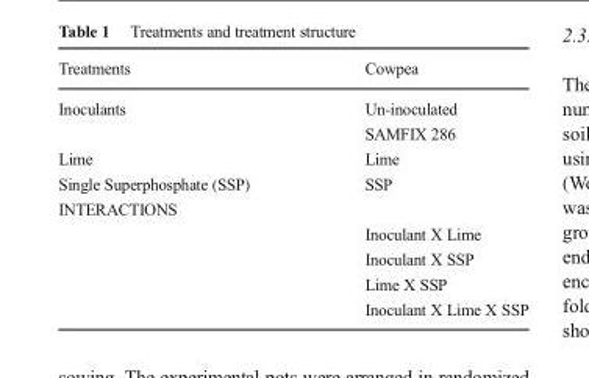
<table><thead><tr><td>Treatments</td><td>Cowpea</td></tr></thead><tbody><tr><td rowspan="2">Inoculants</td><td>Un-inoculated</td></tr><tr><td>SAMFIX 286</td></tr><tr><td>Lime</td><td>Lime</td></tr><tr><td>Single Superphosphate (SSP)</td><td>SSP</td></tr><tr><td colspan="2">INTERACTIONS</td></tr><tr><td></td><td>Inoculant X Lime</td></tr><tr><td></td><td>Inoculant X SSP</td></tr><tr><td></td><td>Lime X SSP</td></tr><tr><td></td><td>Inoculant X Lime X SSP</td></tr></tbody></table>